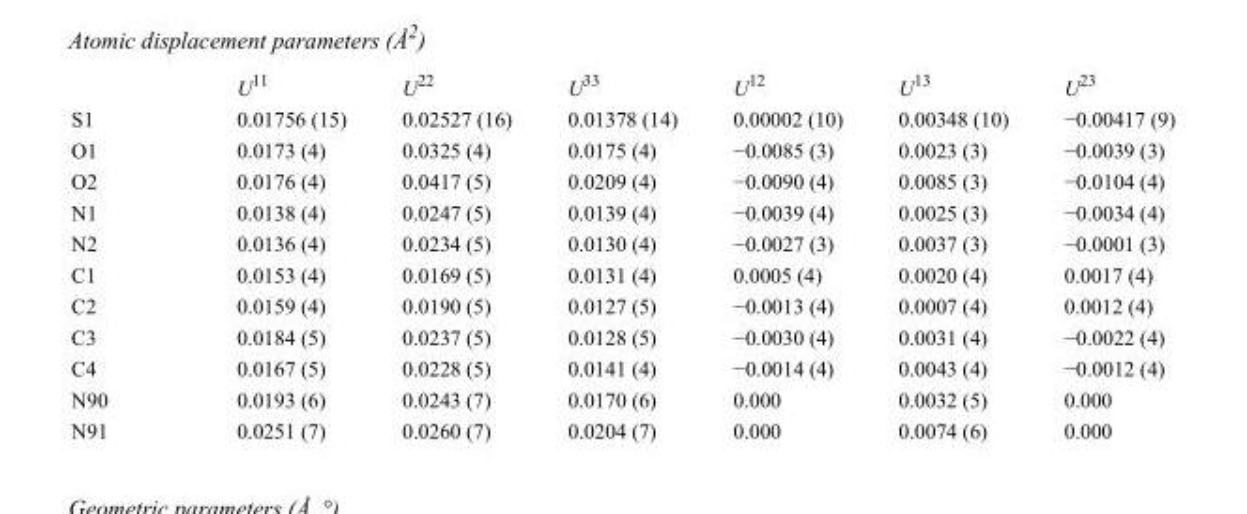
<table><thead><tr><td></td><td>U<sup>11</sup></td><td>U<sup>22</sup></td><td>U<sup>33</sup></td><td>U<sup>12</sup></td><td>U<sup>13</sup></td><td>U<sup>23</sup></td></tr></thead><tbody><tr><td>S1</td><td>0.01756 (15)</td><td>0.02527 (16)</td><td>0.01378 (14)</td><td>0.00002 (10)</td><td>0.00348 (10)</td><td>−0.00417 (9)</td></tr><tr><td>O1</td><td>0.0173 (4)</td><td>0.0325 (4)</td><td>0.0175 (4)</td><td>−0.0085 (3)</td><td>0.0023 (3)</td><td>−0.0039 (3)</td></tr><tr><td>O2</td><td>0.0176 (4)</td><td>0.0417 (5)</td><td>0.0209 (4)</td><td>−0.0090 (4)</td><td>0.0085 (3)</td><td>−0.0104 (4)</td></tr><tr><td>N1</td><td>0.0138 (4)</td><td>0.0247 (5)</td><td>0.0139 (4)</td><td>−0.0039 (4)</td><td>0.0025 (3)</td><td>−0.0034 (4)</td></tr><tr><td>N2</td><td>0.0136 (4)</td><td>0.0234 (5)</td><td>0.0130 (4)</td><td>−0.0027 (3)</td><td>0.0037 (3)</td><td>−0.0001 (3)</td></tr><tr><td>C1</td><td>0.0153 (4)</td><td>0.0169 (5)</td><td>0.0131 (4)</td><td>0.0005 (4)</td><td>0.0020 (4)</td><td>0.0017 (4)</td></tr><tr><td>C2</td><td>0.0159 (4)</td><td>0.0190 (5)</td><td>0.0127 (5)</td><td>−0.0013 (4)</td><td>0.0007 (4)</td><td>0.0012 (4)</td></tr><tr><td>C3</td><td>0.0184 (5)</td><td>0.0237 (5)</td><td>0.0128 (5)</td><td>−0.0030 (4)</td><td>0.0031 (4)</td><td>−0.0022 (4)</td></tr><tr><td>C4</td><td>0.0167 (5)</td><td>0.0228 (5)</td><td>0.0141 (4)</td><td>−0.0014 (4)</td><td>0.0043 (4)</td><td>−0.0012 (4)</td></tr><tr><td>N90</td><td>0.0193 (6)</td><td>0.0243 (7)</td><td>0.0170 (6)</td><td>0.000</td><td>0.0032 (5)</td><td>0.000</td></tr><tr><td>N91</td><td>0.0251 (7)</td><td>0.0260 (7)</td><td>0.0204 (7)</td><td>0.000</td><td>0.0074 (6)</td><td>0.000</td></tr></tbody></table>